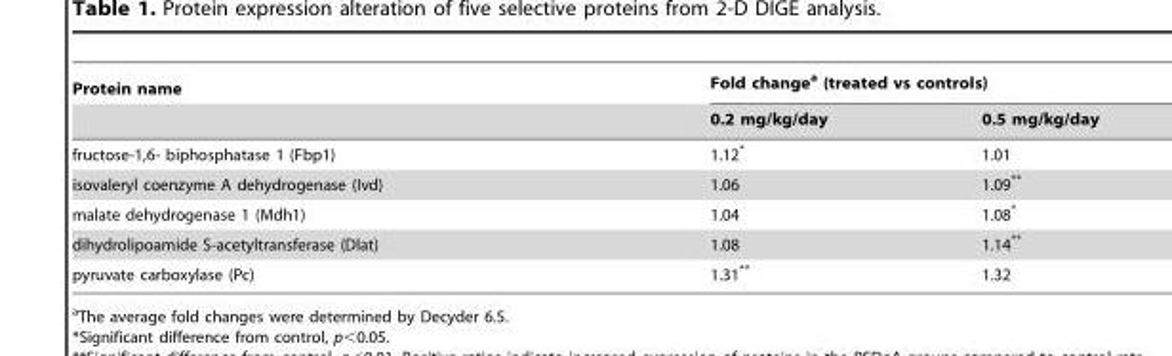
<table><thead><tr><td rowspan="2">Protein name</td><td colspan="2">Fold change<sup>a</sup> (treated vs controls)</td></tr><tr><td>0.2 mg/kg/day</td><td>0.5 mg/kg/day</td></tr></thead><tbody><tr><td>fructose-1,6- biphosphatase 1 (Fbp1)</td><td>1.12*</td><td>1.01</td></tr><tr><td>isovaleryl coenzyme A dehydrogenase (Ivd)</td><td>1.06</td><td>1.09**</td></tr><tr><td>malate dehydrogenase 1 (Mdh1)</td><td>1.04</td><td>1.08*</td></tr><tr><td>dihydrolipoamide S-acetyltransferase (Dlat)</td><td>1.08</td><td>1.14**</td></tr><tr><td>pyruvate carboxylase (Pc)</td><td>1.31**</td><td>1.32</td></tr></tbody></table>